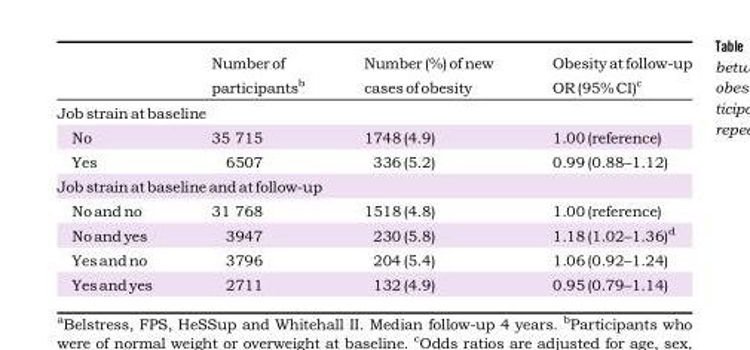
<table><thead><tr><td></td><td>Numberof participants<sup>b</sup></td><td>Number(%)ofnew casesofobesity</td><td>Obesityatfollow-up OR(95%CI)<sup>c</sup></td></tr></thead><tbody><tr><td colspan="4">Jobstrainat baseline</td></tr><tr><td>No</td><td>35 715</td><td>1748(4.9)</td><td>1.00(reference)</td></tr><tr><td>Yes</td><td>6507</td><td>336(5.2)</td><td>0.99(0.88–1.12)</td></tr><tr><td colspan="4">Jobstrainat baselineand atfollow-up</td></tr><tr><td>Noandno</td><td>31 768</td><td>1518(4.8)</td><td>1.00(reference)</td></tr><tr><td>Noandyes</td><td>3947</td><td>230(5.8)</td><td>1.18(1.02–1.36)<sup>d</sup></td></tr><tr><td>Yesandno</td><td>3796</td><td>204(5.4)</td><td>1.06(0.92–1.24)</td></tr><tr><td>Yesandyes</td><td>2711</td><td>132(4.9)</td><td>0.95(0.79–1.14)</td></tr></tbody></table>